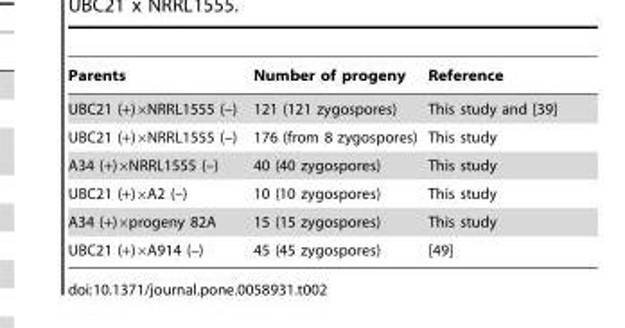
<table><thead><tr><td>Parents</td><td>Number of progeny</td><td>Reference</td></tr></thead><tbody><tr><td>UBC21 (+)×NRRL1555 (–)</td><td>121 (121 zygospores)</td><td>This study and [39]</td></tr><tr><td>UBC21 (+)×NRRL1555 (–)</td><td>176 (from 8 zygospores)</td><td>This study</td></tr><tr><td>A34 (+)×NRRL1555 (–)</td><td>40 (40 zygospores)</td><td>This study</td></tr><tr><td>UBC21 (+)×A2 (–)</td><td>10 (10 zygospores)</td><td>This study</td></tr><tr><td>A34 (+)×progeny 82A</td><td>15 (15 zygospores)</td><td>This study</td></tr><tr><td>UBC21 (+)×A914 (–)</td><td>45 (45 zygospores)</td><td>[49]</td></tr></tbody></table>